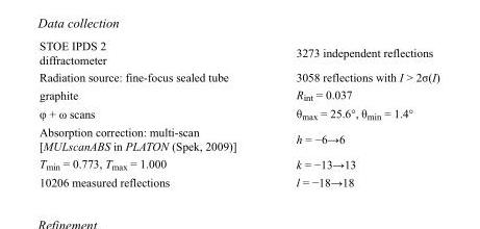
<table><tbody><tr><td>STOE IPDS 2 diffractometer</td><td>3273 independent reflections</td></tr><tr><td>Radiation source: fine-focus sealed tube</td><td>3058 reflections with I &gt; 2σ(I)</td></tr><tr><td>graphite</td><td>R<sub>int</sub> = 0.037</td></tr><tr><td>φ + ω scans</td><td>θ<sub>max</sub> = 25.6°, θ<sub>min</sub> = 1.4°</td></tr><tr><td>Absorption correction: multi-scan [MULscanABS in PLATON (Spek, 2009)]</td><td>h = −6→6</td></tr><tr><td>T<sub>min</sub> = 0.773, T<sub>max</sub> = 1.000</td><td>k = −13→13</td></tr><tr><td>10206 measured reflections</td><td>l = −18→18</td></tr></tbody></table>